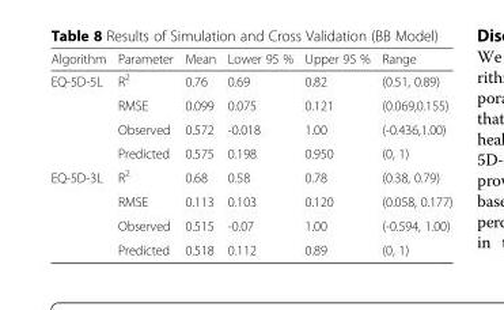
<table><thead><tr><td>Algorithm</td><td>Parameter</td><td>Mean</td><td>Lower 95 %</td><td>Upper 95 %</td><td>Range</td></tr></thead><tbody><tr><td rowspan="4">EQ-5D-5L</td><td>R<sup>2</sup></td><td>0.76</td><td>0.69</td><td>0.82</td><td>(0.51, 0.89)</td></tr><tr><td>RMSE</td><td>0.099</td><td>0.075</td><td>0.121</td><td>(0.069,0.155)</td></tr><tr><td>Observed</td><td>0.572</td><td>-0.018</td><td>1.00</td><td>(-0.436,1.00)</td></tr><tr><td>Predicted</td><td>0.575</td><td>0.198</td><td>0.950</td><td>(0, 1)</td></tr><tr><td rowspan="4">EQ-5D-3L</td><td>R<sup>2</sup></td><td>0.68</td><td>0.58</td><td>0.78</td><td>(0.38, 0.79)</td></tr><tr><td>RMSE</td><td>0.113</td><td>0.103</td><td>0.120</td><td>(0.058, 0.177)</td></tr><tr><td>Observed</td><td>0.515</td><td>-0.07</td><td>1.00</td><td>(-0.594, 1.00)</td></tr><tr><td>Predicted</td><td>0.518</td><td>0.112</td><td>0.89</td><td>(0, 1)</td></tr></tbody></table>